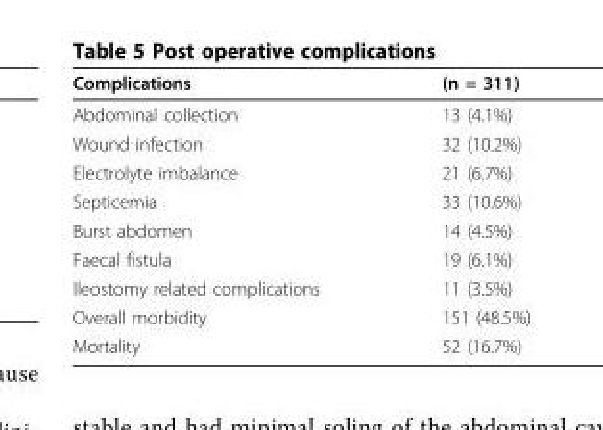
<table><thead><tr><td>Complications</td><td>(n = 311)</td></tr></thead><tbody><tr><td>Abdominal collection</td><td>13 (4.1%)</td></tr><tr><td>Wound infection</td><td>32 (10.2%)</td></tr><tr><td>Electrolyte imbalance</td><td>21 (6.7%)</td></tr><tr><td>Septicemia</td><td>33 (10.6%)</td></tr><tr><td>Burst abdomen</td><td>14 (4.5%)</td></tr><tr><td>Faecal fistula</td><td>19 (6.1%)</td></tr><tr><td>Ileostomy related complications</td><td>11 (3.5%)</td></tr><tr><td>Overall morbidity</td><td>151 (48.5%)</td></tr><tr><td>Mortality</td><td>52 (16.7%)</td></tr></tbody></table>